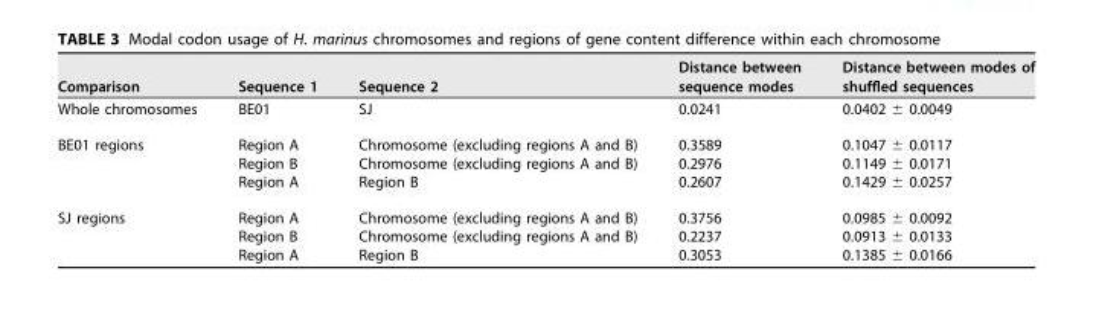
<table><thead><tr><td>Comparison</td><td>Sequence 1</td><td>Sequence 2</td><td>Distance between sequence modes</td><td>Distance between modes of shuffled sequences</td></tr></thead><tbody><tr><td>Whole chromosomes</td><td>BE01</td><td>SJ</td><td>0.0241</td><td>0.0402 ± 0.0049</td></tr><tr><td rowspan="3">BE01 regions</td><td>Region A</td><td>Chromosome (excluding regions A and B)</td><td>0.3589</td><td>0.1047 ± 0.0117</td></tr><tr><td>Region B</td><td>Chromosome (excluding regions A and B)</td><td>0.2976</td><td>0.1149 ± 0.0171</td></tr><tr><td>Region A</td><td>Region B</td><td>0.2607</td><td>0.1429 ± 0.0257</td></tr><tr><td rowspan="3">SJ regions</td><td>Region A</td><td>Chromosome (excluding regions A and B)</td><td>0.3756</td><td>0.0985 ± 0.0092</td></tr><tr><td>Region B</td><td>Chromosome (excluding regions A and B)</td><td>0.2237</td><td>0.0913 ± 0.0133</td></tr><tr><td>Region A</td><td>Region B</td><td>0.3053</td><td>0.1385 ± 0.0166</td></tr></tbody></table>